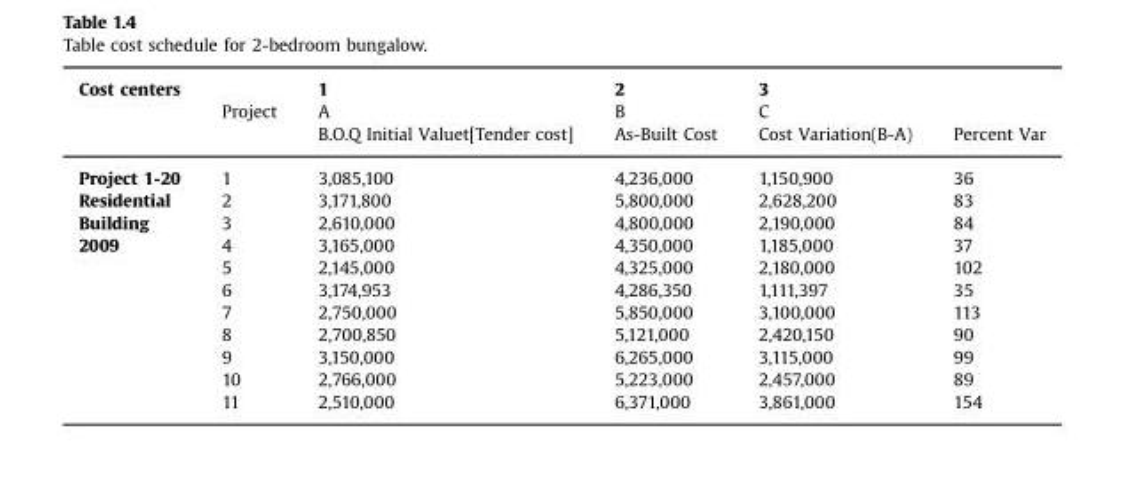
<table><thead><tr><td rowspan="3">Cost centers</td><td rowspan="3">Project</td><td rowspan="3">1 A B.O.Q Initial Valuet[Tender cost]</td><td rowspan="3">2 B As-Built Cost</td><td rowspan="3">3 C Cost Variation(B-A)</td><td rowspan="3">Percent Var</td></tr><tr></tr><tr></tr></thead><tbody><tr><td>Project 1-20</td><td>1</td><td>3,085,100</td><td>4,236,000</td><td>1,150,900</td><td>36</td></tr><tr><td>Residential</td><td>2</td><td>3,171,800</td><td>5,800,000</td><td>2,628,200</td><td>83</td></tr><tr><td>Building</td><td>3</td><td>2,610,000</td><td>4,800,000</td><td>2,190,000</td><td>84</td></tr><tr><td rowspan="8">2009</td><td>4</td><td>3,165,000</td><td>4,350,000</td><td>1,185,000</td><td>37</td></tr><tr><td>5</td><td>2,145,000</td><td>4,325,000</td><td>2,180,000</td><td>102</td></tr><tr><td>6</td><td>3,174,953</td><td>4,286,350</td><td>1,111,397</td><td>35</td></tr><tr><td>7</td><td>2,750,000</td><td>5,850,000</td><td>3,100,000</td><td>113</td></tr><tr><td>8</td><td>2,700,850</td><td>5,121,000</td><td>2,420,150</td><td>90</td></tr><tr><td>9</td><td>3,150,000</td><td>6,265,000</td><td>3,115,000</td><td>99</td></tr><tr><td>10</td><td>2,766,000</td><td>5,223,000</td><td>2,457,000</td><td>89</td></tr><tr><td>11</td><td>2,510,000</td><td>6,371,000</td><td>3,861,000</td><td>154</td></tr></tbody></table>